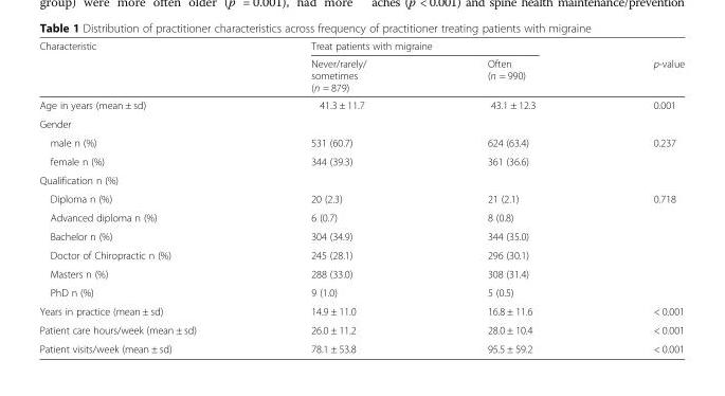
<table><thead><tr><td rowspan="2">Characteristic</td><td colspan="2">Treat patients with migraine</td><td rowspan="2">p-value</td></tr><tr><td>Never/rarely/ sometimes (n = 879)</td><td>Often (n = 990)</td></tr></thead><tbody><tr><td>Age in years (mean ± sd)</td><td>41.3 ± 11.7</td><td>43.1 ± 12.3</td><td>0.001</td></tr><tr><td colspan="4">Gender</td></tr><tr><td>male n (%)</td><td>531 (60.7)</td><td>624 (63.4)</td><td rowspan="2">0.237</td></tr><tr><td>female n (%)</td><td>344 (39.3)</td><td>361 (36.6)</td></tr><tr><td colspan="4">Qualification n (%)</td></tr><tr><td>Diploma n (%)</td><td>20 (2.3)</td><td>21 (2.1)</td><td rowspan="6">0.718</td></tr><tr><td>Advanced diploma n (%)</td><td>6 (0.7)</td><td>8 (0.8)</td></tr><tr><td>Bachelor n (%)</td><td>304 (34.9)</td><td>344 (35.0)</td></tr><tr><td>Doctor of Chiropractic n (%)</td><td>245 (28.1)</td><td>296 (30.1)</td></tr><tr><td>Masters n (%)</td><td>288 (33.0)</td><td>308 (31.4)</td></tr><tr><td>PhD n (%)</td><td>9 (1.0)</td><td>5 (0.5)</td></tr><tr><td>Years in practice (mean ± sd)</td><td>14.9 ± 11.0</td><td>16.8 ± 11.6</td><td>&lt; 0.001</td></tr><tr><td>Patient care hours/week (mean ± sd)</td><td>26.0 ± 11.2</td><td>28.0 ± 10.4</td><td>&lt; 0.001</td></tr><tr><td>Patient visits/week (mean ± sd)</td><td>78.1 ± 53.8</td><td>95.5 ± 59.2</td><td>&lt; 0.001</td></tr></tbody></table>